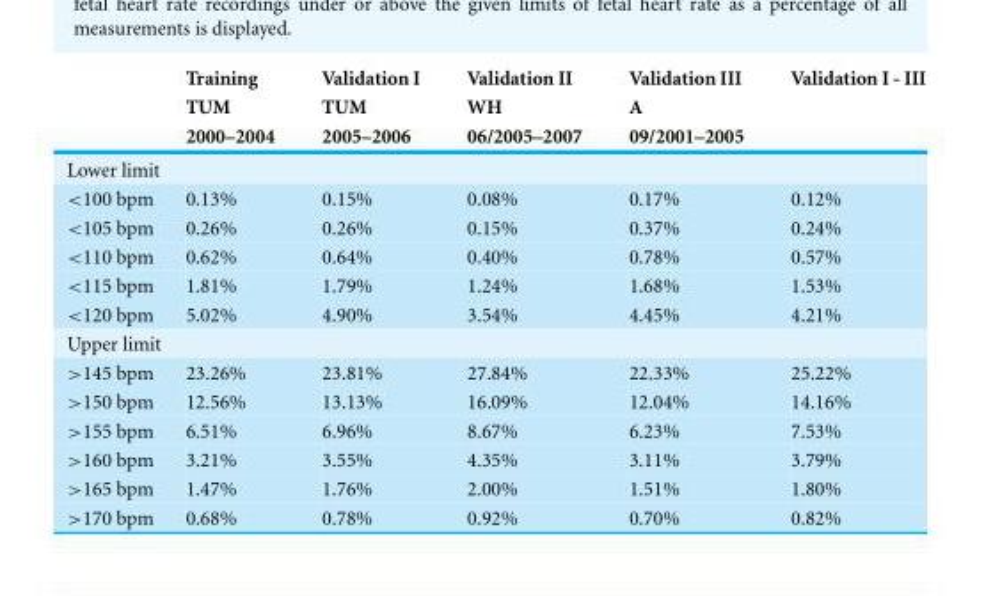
<table><thead><tr><td rowspan="3"></td><td rowspan="3">Training TUM 2000–2004</td><td rowspan="3">Validation I TUM 2005–2006</td><td rowspan="3">Validation II WH 06/2005–2007</td><td rowspan="3">Validation III A 09/2001–2005</td><td rowspan="3">Validation I - III</td></tr><tr></tr><tr></tr></thead><tbody><tr><td colspan="6">Lower limit</td></tr><tr><td>&lt;100 bpm</td><td>0.13%</td><td>0.15%</td><td>0.08%</td><td>0.17%</td><td>0.12%</td></tr><tr><td>&lt;105 bpm</td><td>0.26%</td><td>0.26%</td><td>0.15%</td><td>0.37%</td><td>0.24%</td></tr><tr><td>&lt;110 bpm</td><td>0.62%</td><td>0.64%</td><td>0.40%</td><td>0.78%</td><td>0.57%</td></tr><tr><td>&lt;115 bpm</td><td>1.81%</td><td>1.79%</td><td>1.24%</td><td>1.68%</td><td>1.53%</td></tr><tr><td>&lt;120 bpm</td><td>5.02%</td><td>4.90%</td><td>3.54%</td><td>4.45%</td><td>4.21%</td></tr><tr><td colspan="6">Upper limit</td></tr><tr><td>&gt;145 bpm</td><td>23.26%</td><td>23.81%</td><td>27.84%</td><td>22.33%</td><td>25.22%</td></tr><tr><td>&gt;150 bpm</td><td>12.56%</td><td>13.13%</td><td>16.09%</td><td>12.04%</td><td>14.16%</td></tr><tr><td>&gt;155 bpm</td><td>6.51%</td><td>6.96%</td><td>8.67%</td><td>6.23%</td><td>7.53%</td></tr><tr><td>&gt;160 bpm</td><td>3.21%</td><td>3.55%</td><td>4.35%</td><td>3.11%</td><td>3.79%</td></tr><tr><td>&gt;165 bpm</td><td>1.47%</td><td>1.76%</td><td>2.00%</td><td>1.51%</td><td>1.80%</td></tr><tr><td>&gt;170 bpm</td><td>0.68%</td><td>0.78%</td><td>0.92%</td><td>0.70%</td><td>0.82%</td></tr></tbody></table>